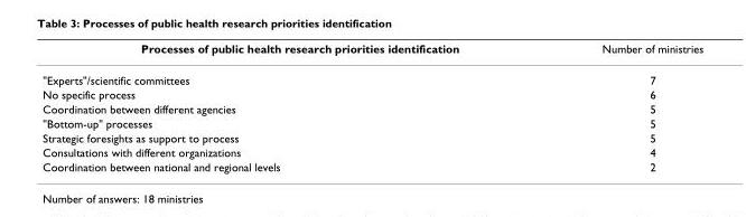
<table><thead><tr><td>Processes of public health research priorities identification</td><td>Number of ministries</td></tr></thead><tbody><tr><td>&quot;Experts&quot;/scientific committees</td><td>7</td></tr><tr><td>No specific process</td><td>6</td></tr><tr><td>Coordination between different agencies</td><td>5</td></tr><tr><td>&quot;Bottom-up&quot; processes</td><td>5</td></tr><tr><td>Strategic foresights as support to process</td><td>5</td></tr><tr><td>Consultations with different organizations</td><td>4</td></tr><tr><td>Coordination between national and regional levels</td><td>2</td></tr></tbody></table>